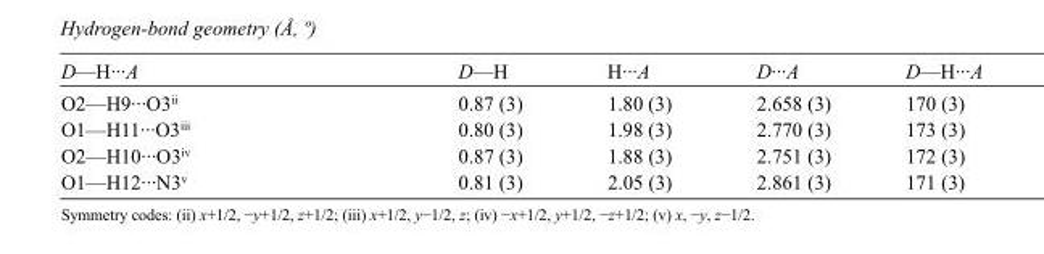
<table><tbody><tr><td>D—H···A</td><td>D—H</td><td>H···A</td><td>D···A</td><td>D—H···A</td></tr><tr><td>O2—H9···O3<sup>ii</sup></td><td>0.87 (3)</td><td>1.80 (3)</td><td>2.658 (3)</td><td>170 (3)</td></tr><tr><td>O1—H11···O3<sup>iii</sup></td><td>0.80 (3)</td><td>1.98 (3)</td><td>2.770 (3)</td><td>173 (3)</td></tr><tr><td>O2—H10···O3<sup>iv</sup></td><td>0.87 (3)</td><td>1.88 (3)</td><td>2.751 (3)</td><td>172 (3)</td></tr><tr><td>O1—H12···N3<sup>v</sup></td><td>0.81 (3)</td><td>2.05 (3)</td><td>2.861 (3)</td><td>171 (3)</td></tr></tbody></table>